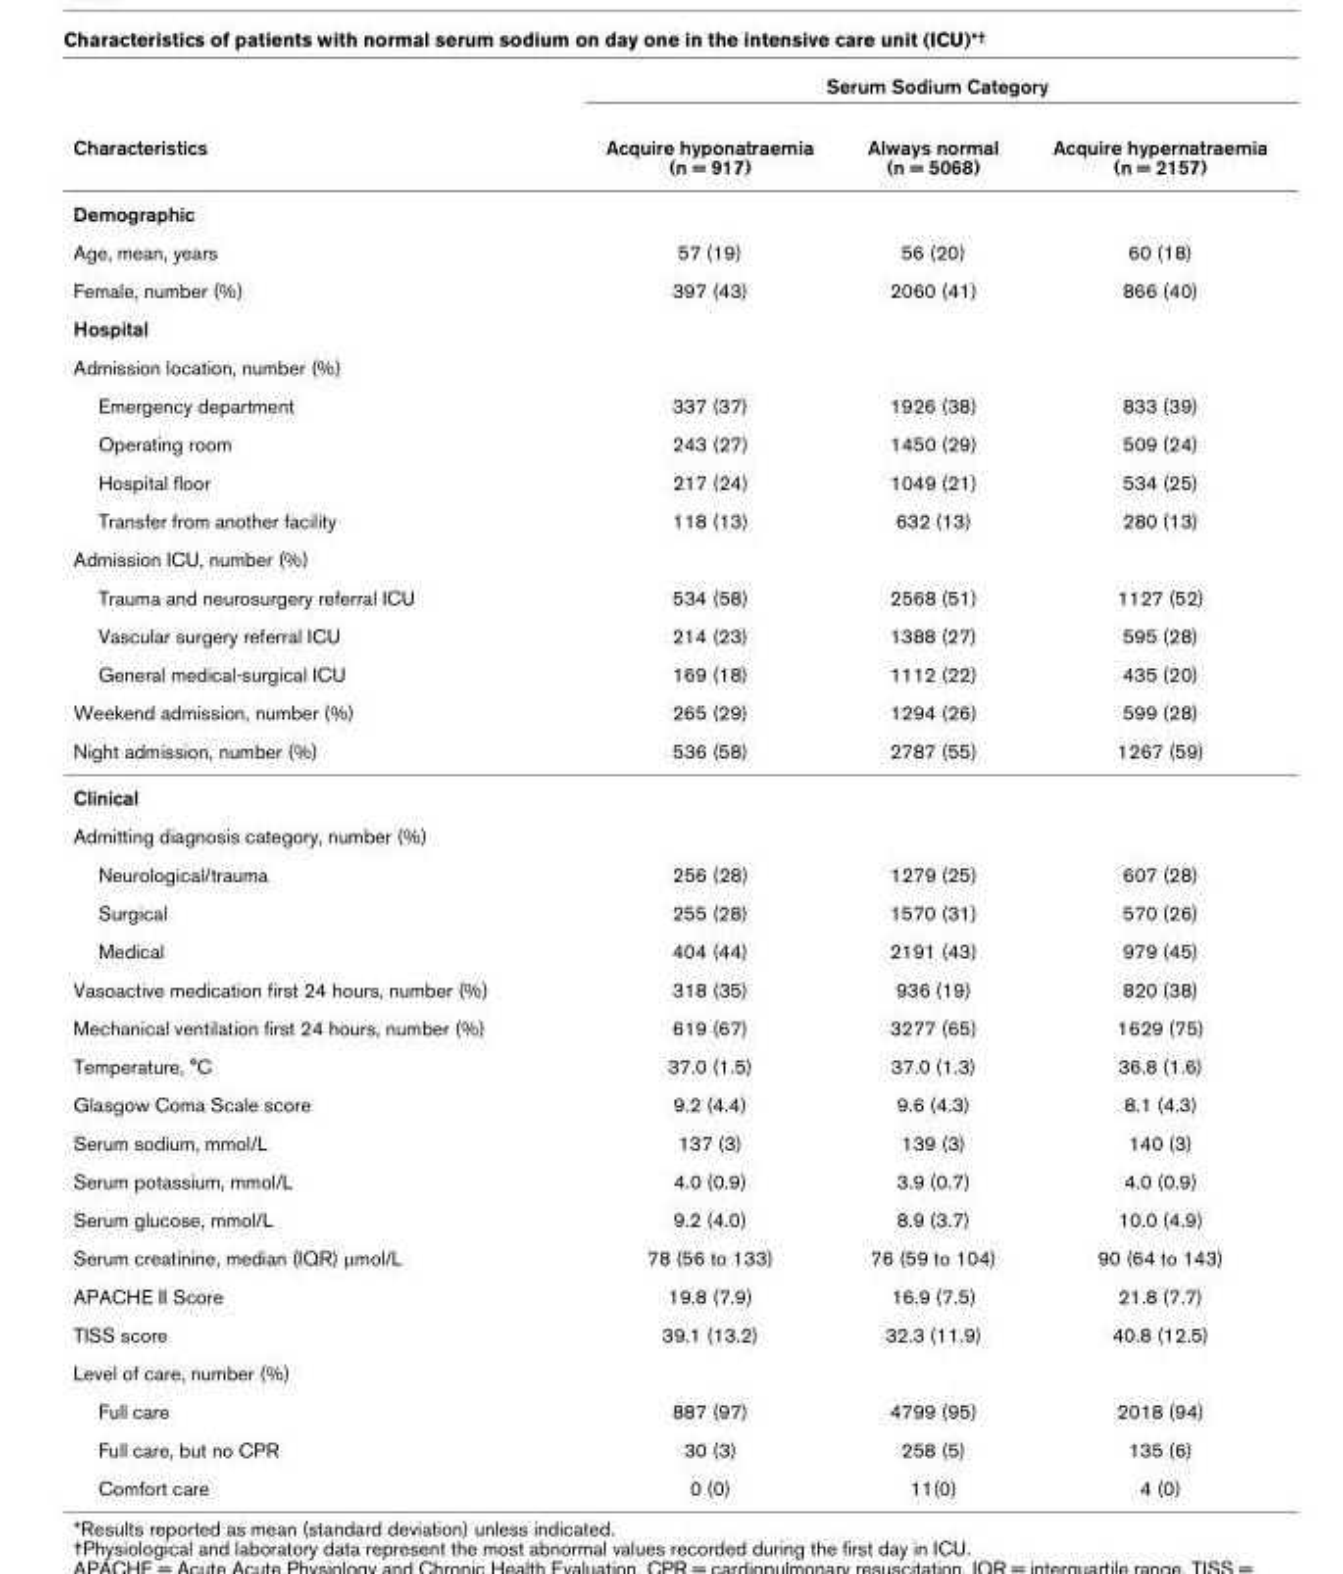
<table><thead><tr><td rowspan="2">Characteristics</td><td colspan="3">Serum Sodium Category</td></tr><tr><td>Acquire hyponatraemia (n = 917)</td><td>Always normal (n = 5068)</td><td>Acquire hypernatraemia (n = 2157)</td></tr></thead><tbody><tr><td colspan="4">Demographic</td></tr><tr><td>Age, mean, years</td><td>57 (19)</td><td>56 (20)</td><td>60 (18)</td></tr><tr><td>Female, number (%)</td><td>397 (43)</td><td>2060 (41)</td><td>866 (40)</td></tr><tr><td colspan="4">Hospital</td></tr><tr><td colspan="4">Admission location, number (%)</td></tr><tr><td>Emergency department</td><td>337 (37)</td><td>1926 (38)</td><td>833 (39)</td></tr><tr><td>Operating room</td><td>243 (27)</td><td>1450 (29)</td><td>509 (24)</td></tr><tr><td>Hospital floor</td><td>217 (24)</td><td>1049 (21)</td><td>534 (25)</td></tr><tr><td>Transfer from another facility</td><td>118 (13)</td><td>632 (13)</td><td>280 (13)</td></tr><tr><td colspan="4">Admission ICU, number (%)</td></tr><tr><td>Trauma and neurosurgery referral ICU</td><td>534 (58)</td><td>2568 (51)</td><td>1127 (52)</td></tr><tr><td>Vascular surgery referral ICU</td><td>214 (23)</td><td>1388 (27)</td><td>595 (28)</td></tr><tr><td>General medical-surgical ICU</td><td>169 (18)</td><td>1112 (22)</td><td>435 (20)</td></tr><tr><td>Weekend admission, number (%)</td><td>265 (29)</td><td>1294 (26)</td><td>599 (28)</td></tr><tr><td>Night admission, number (%)</td><td>536 (58)</td><td>2787 (55)</td><td>1267 (59)</td></tr><tr><td colspan="4">Clinical</td></tr><tr><td colspan="4">Admitting diagnosis category, number (%)</td></tr><tr><td>Neurological/trauma</td><td>256 (28)</td><td>1279 (25)</td><td>607 (28)</td></tr><tr><td>Surgical</td><td>255 (28)</td><td>1570 (31)</td><td>570 (26)</td></tr><tr><td>Medical</td><td>404 (44)</td><td>2191 (43)</td><td>979 (45)</td></tr><tr><td>Vasoactive medication first 24 hours, number (%)</td><td>318 (35)</td><td>936 (19)</td><td>820 (38)</td></tr><tr><td>Mechanical ventilation first 24 hours, number (%)</td><td>619 (67)</td><td>3277 (65)</td><td>1629 (75)</td></tr><tr><td>Temperature, °C</td><td>37.0 (1.5)</td><td>37.0 (1.3)</td><td>36.8 (1.6)</td></tr><tr><td>Glasgow Coma Scale score</td><td>9.2 (4.4)</td><td>9.6 (4.3)</td><td>8.1 (4.3)</td></tr><tr><td>Serum sodium, mmol/L</td><td>137 (3)</td><td>139 (3)</td><td>140 (3)</td></tr><tr><td>Serum potassium, mmol/L</td><td>4.0 (0.9)</td><td>3.9 (0.7)</td><td>4.0 (0.9)</td></tr><tr><td>Serum glucose, mmol/L</td><td>9.2 (4.0)</td><td>8.9 (3.7)</td><td>10.0 (4.9)</td></tr><tr><td>Serum creatinine, median (IQR) μmol/L</td><td>78 (56 to 133)</td><td>76 (59 to 104)</td><td>90 (64 to 143)</td></tr><tr><td>APACHE II Score</td><td>19.8 (7.9)</td><td>16.9 (7.5)</td><td>21.8 (7.7)</td></tr><tr><td>TISS score</td><td>39.1 (13.2)</td><td>32.3 (11.9)</td><td>40.8 (12.5)</td></tr><tr><td colspan="4">Level of care, number (%)</td></tr><tr><td>Full care</td><td>887 (97)</td><td>4799 (95)</td><td>2018 (94)</td></tr><tr><td>Full care, but no CPR</td><td>30 (3)</td><td>258 (5)</td><td>135 (6)</td></tr><tr><td>Comfort care</td><td>0 (0)</td><td>11(0)</td><td>4 (0)</td></tr></tbody></table>